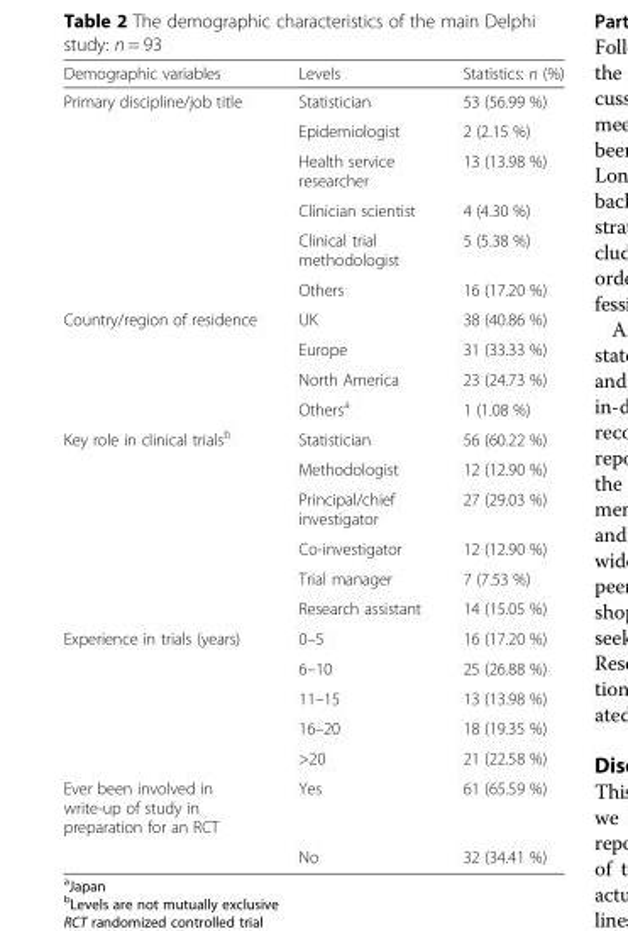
<table><thead><tr><td>Demographic variables</td><td>Levels</td><td>Statistics: n (%)</td></tr></thead><tbody><tr><td rowspan="6">Primary discipline/job title</td><td>Statistician</td><td>53 (56.99 %)</td></tr><tr><td>Epidemiologist</td><td>2 (2.15 %)</td></tr><tr><td>Health service researcher</td><td>13 (13.98 %)</td></tr><tr><td>Clinician scientist</td><td>4 (4.30 %)</td></tr><tr><td>Clinical trial methodologist</td><td>5 (5.38 %)</td></tr><tr><td>Others</td><td>16 (17.20 %)</td></tr><tr><td rowspan="4">Country/region of residence</td><td>UK</td><td>38 (40.86 %)</td></tr><tr><td>Europe</td><td>31 (33.33 %)</td></tr><tr><td>North America</td><td>23 (24.73 %)</td></tr><tr><td>Others<sup>a</sup></td><td>1 (1.08 %)</td></tr><tr><td rowspan="6">Key role in clinical trials<sup>b</sup></td><td>Statistician</td><td>56 (60.22 %)</td></tr><tr><td>Methodologist</td><td>12 (12.90 %)</td></tr><tr><td>Principal/chief investigator</td><td>27 (29.03 %)</td></tr><tr><td>Co-investigator</td><td>12 (12.90 %)</td></tr><tr><td>Trial manager</td><td>7 (7.53 %)</td></tr><tr><td>Research assistant</td><td>14 (15.05 %)</td></tr><tr><td rowspan="5">Experience in trials (years)</td><td>0–5</td><td>16 (17.20 %)</td></tr><tr><td>6–10</td><td>25 (26.88 %)</td></tr><tr><td>11–15</td><td>13 (13.98 %)</td></tr><tr><td>16–20</td><td>18 (19.35 %)</td></tr><tr><td>&gt;20</td><td>21 (22.58 %)</td></tr><tr><td rowspan="2">Ever been involved in write-up of study in preparation for an RCT</td><td>Yes</td><td>61 (65.59 %)</td></tr><tr><td>No</td><td>32 (34.41 %)</td></tr></tbody></table>